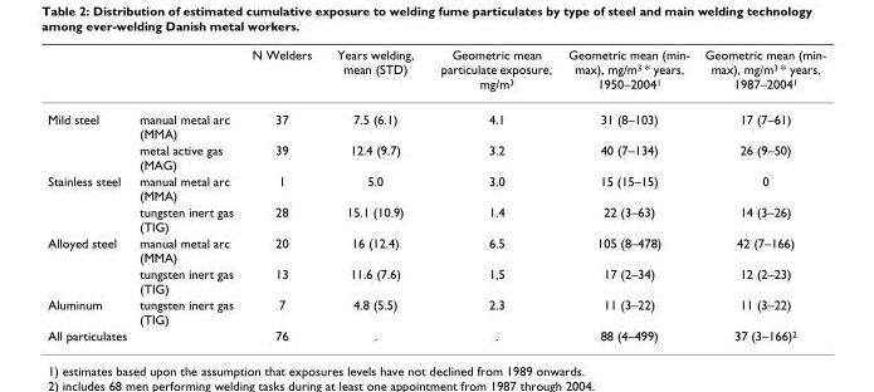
<table><thead><tr><td></td><td></td><td>N Welders</td><td>Years welding, mean (STD)</td><td>Geometric mean particulate exposure, mg/m<sup>3</sup></td><td>Geometric mean (min- max), mg/m<sup>3</sup> * years, 1950–2004<sup>1</sup></td><td>Geometric mean (min- max), mg/m<sup>3</sup> * years, 1987–2004<sup>1</sup></td></tr></thead><tbody><tr><td rowspan="2">Mild steel</td><td>manual metal arc (MMA)</td><td>37</td><td>7.5 (6.1)</td><td>4.1</td><td>31 (8–103)</td><td>17 (7–61)</td></tr><tr><td>metal active gas (MAG)</td><td>39</td><td>12.4 (9.7)</td><td>3.2</td><td>40 (7–134)</td><td>26 (9–50)</td></tr><tr><td rowspan="2">Stainless steel</td><td>manual metal arc (MMA)</td><td>1</td><td>5.0</td><td>3.0</td><td>15 (15–15)</td><td>0</td></tr><tr><td>tungsten inert gas (TIG)</td><td>28</td><td>15.1 (10.9)</td><td>1.4</td><td>22 (3–63)</td><td>14 (3–26)</td></tr><tr><td rowspan="2">Alloyed steel</td><td>manual metal arc (MMA)</td><td>20</td><td>16 (12.4)</td><td>6.5</td><td>105 (8–478)</td><td>42 (7–166)</td></tr><tr><td>tungsten inert gas (TIG)</td><td>13</td><td>11.6 (7.6)</td><td>1,5</td><td>17 (2–34)</td><td>12 (2–23)</td></tr><tr><td>Aluminum</td><td>tungsten inert gas (TIG)</td><td>7</td><td>4.8 (5.5)</td><td>2.3</td><td>11 (3–22)</td><td>11 (3–22)</td></tr><tr><td>All particulates</td><td></td><td>76</td><td>.</td><td>.</td><td>88 (4–499)</td><td>37 (3–166)<sup>2</sup></td></tr></tbody></table>